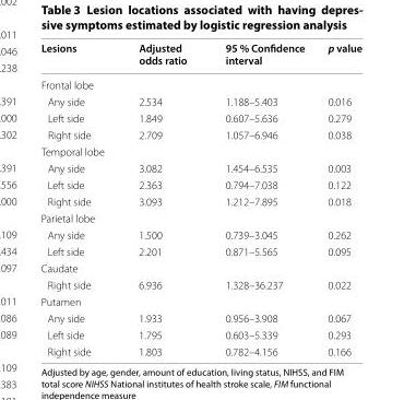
<table><thead><tr><td>Lesions</td><td>Adjusted odds ratio</td><td>95 % Confidence interval</td><td>p value</td></tr></thead><tbody><tr><td colspan="4">Frontal lobe</td></tr><tr><td>Any side</td><td>2.534</td><td>1.188–5.403</td><td>0.016</td></tr><tr><td>Left side</td><td>1.849</td><td>0.607–5.636</td><td>0.279</td></tr><tr><td>Right side</td><td>2.709</td><td>1.057–6.946</td><td>0.038</td></tr><tr><td colspan="4">Temporal lobe</td></tr><tr><td>Any side</td><td>3.082</td><td>1.454–6.535</td><td>0.003</td></tr><tr><td>Left side</td><td>2.363</td><td>0.794–7.038</td><td>0.122</td></tr><tr><td>Right side</td><td>3.093</td><td>1.212–7.895</td><td>0.018</td></tr><tr><td colspan="4">Parietal lobe</td></tr><tr><td>Any side</td><td>1.500</td><td>0.739–3.045</td><td>0.262</td></tr><tr><td>Left side</td><td>2.201</td><td>0.871–5.565</td><td>0.095</td></tr><tr><td colspan="4">Caudate</td></tr><tr><td>Right side</td><td>6.936</td><td>1.328–36.237</td><td>0.022</td></tr><tr><td colspan="4">Putamen</td></tr><tr><td>Any side</td><td>1.933</td><td>0.956–3.908</td><td>0.067</td></tr><tr><td>Left side</td><td>1.795</td><td>0.603–5.339</td><td>0.293</td></tr><tr><td>Right side</td><td>1.803</td><td>0.782–4.156</td><td>0.166</td></tr></tbody></table>